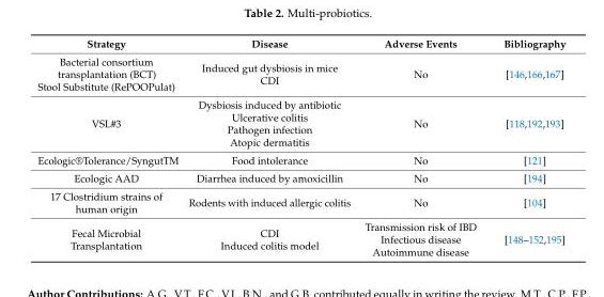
<table><thead><tr><td>Strategy</td><td>Disease</td><td>Adverse Events</td><td>Bibliography</td></tr></thead><tbody><tr><td>Bacterial consortium transplantation (BCT) Stool Substitute (RePOOPulat)</td><td>Induced gut dysbiosis in mice CDI</td><td>No</td><td>[146,166,167]</td></tr><tr><td>VSL#3</td><td>Dysbiosis induced by antibiotic Ulcerative colitis Pathogen infection Atopic dermatitis</td><td>No</td><td>[118,192,193]</td></tr><tr><td>Ecologic®Tolerance/SyngutTM</td><td>Food intolerance</td><td>No</td><td>[121]</td></tr><tr><td>Ecologic AAD</td><td>Diarrhea induced by amoxicillin</td><td>No</td><td>[194]</td></tr><tr><td>17 Clostridium strains of human origin</td><td>Rodents with induced allergic colitis</td><td>No</td><td>[104]</td></tr><tr><td>Fecal Microbial Transplantation</td><td>CDI Induced colitis model</td><td>Transmission risk of IBD Infectious disease Autoimmune disease</td><td>[148–152,195]</td></tr></tbody></table>